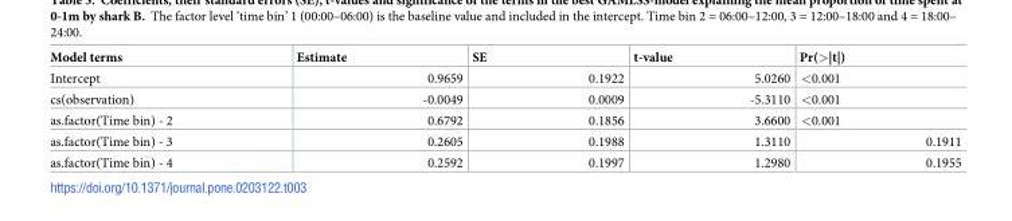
<table><thead><tr><td>Model terms</td><td>Estimate</td><td>SE</td><td>t-value</td><td>Pr(&gt;|t|)</td></tr></thead><tbody><tr><td>Intercept</td><td>0.9659</td><td>0.1922</td><td>5.0260</td><td>&lt;0.001</td></tr><tr><td>cs(observation)</td><td>-0.0049</td><td>0.0009</td><td>-5.3110</td><td>&lt;0.001</td></tr><tr><td>as.factor(Time bin) - 2</td><td>0.6792</td><td>0.1856</td><td>3.6600</td><td>&lt;0.001</td></tr><tr><td>as.factor(Time bin) - 3</td><td>0.2605</td><td>0.1988</td><td>1.3110</td><td>0.1911</td></tr><tr><td>as.factor(Time bin) - 4</td><td>0.2592</td><td>0.1997</td><td>1.2980</td><td>0.1955</td></tr></tbody></table>